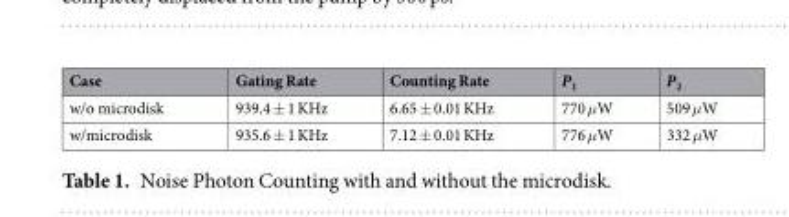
<table><thead><tr><td>Case</td><td>Gating Rate</td><td>Counting Rate</td><td>P<sub>1</sub></td><td>P<sub>2</sub></td></tr></thead><tbody><tr><td>w/o microdisk</td><td>939.4 ± 1 KHz</td><td>6.65 ± 0.01 KHz</td><td>770 μW</td><td>509 μW</td></tr><tr><td>w/microdisk</td><td>935.6 ± 1 KHz</td><td>7.12 ± 0.01 KHz</td><td>776 μW</td><td>332 μW</td></tr></tbody></table>